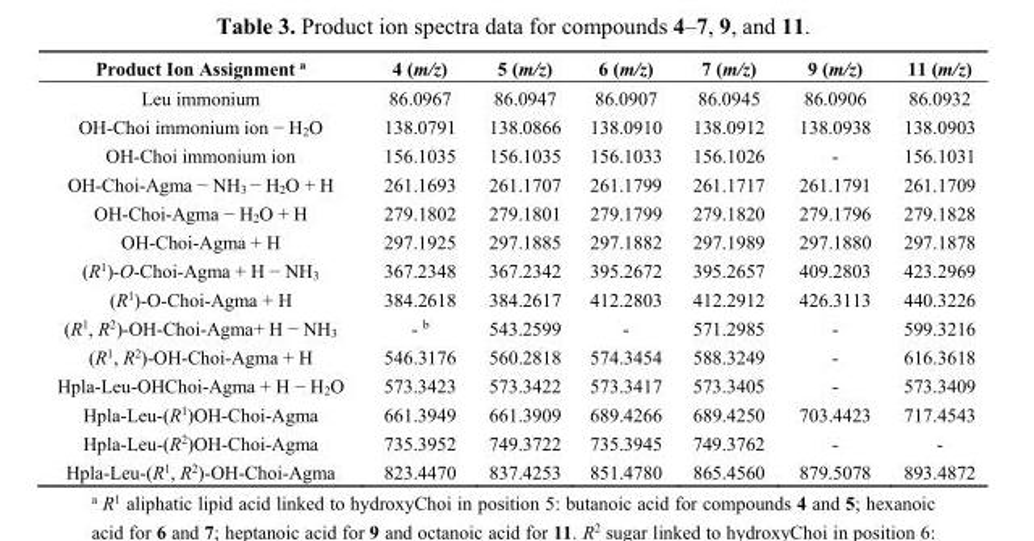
<table><thead><tr><td>Product Ion Assignment <sup>a</sup></td><td>4 (m/z)</td><td>5 (m/z)</td><td>6 (m/z)</td><td>7 (m/z)</td><td>9 (m/z)</td><td>11 (m/z)</td></tr></thead><tbody><tr><td>Leu immonium</td><td>86.0967</td><td>86.0947</td><td>86.0907</td><td>86.0945</td><td>86.0906</td><td>86.0932</td></tr><tr><td>OH-Choi immonium ion − H<sub>2</sub>O</td><td>138.0791</td><td>138.0866</td><td>138.0910</td><td>138.0912</td><td>138.0938</td><td>138.0903</td></tr><tr><td>OH-Choi immonium ion</td><td>156.1035</td><td>156.1035</td><td>156.1033</td><td>156.1026</td><td>-</td><td>156.1031</td></tr><tr><td>OH-Choi-Agma − NH<sub>3</sub> − H<sub>2</sub>O + H</td><td>261.1693</td><td>261.1707</td><td>261.1799</td><td>261.1717</td><td>261.1791</td><td>261.1709</td></tr><tr><td>OH-Choi-Agma − H<sub>2</sub>O + H</td><td>279.1802</td><td>279.1801</td><td>279.1799</td><td>279.1820</td><td>279.1796</td><td>279.1828</td></tr><tr><td>OH-Choi-Agma + H</td><td>297.1925</td><td>297.1885</td><td>297.1882</td><td>297.1989</td><td>297.1880</td><td>297.1878</td></tr><tr><td>(R<sup>1</sup>)-O-Choi-Agma + H − NH<sub>3</sub></td><td>367.2348</td><td>367.2342</td><td>395.2672</td><td>395.2657</td><td>409.2803</td><td>423.2969</td></tr><tr><td>(R<sup>1</sup>)-O-Choi-Agma + H</td><td>384.2618</td><td>384.2617</td><td>412.2803</td><td>412.2912</td><td>426.3113</td><td>440.3226</td></tr><tr><td>(R<sup>1</sup>, R<sup>2</sup>)-OH-Choi-Agma+ H − NH<sub>3</sub></td><td>- <sup>b</sup></td><td>543.2599</td><td>-</td><td>571.2985</td><td>-</td><td>599.3216</td></tr><tr><td>(R<sup>1</sup>, R<sup>2</sup>)-OH-Choi-Agma + H</td><td>546.3176</td><td>560.2818</td><td>574.3454</td><td>588.3249</td><td>-</td><td>616.3618</td></tr><tr><td>Hpla-Leu-OHChoi-Agma + H − H<sub>2</sub>O</td><td>573.3423</td><td>573.3422</td><td>573.3417</td><td>573.3405</td><td>-</td><td>573.3409</td></tr><tr><td>Hpla-Leu-(R<sup>1</sup>)OH-Choi-Agma</td><td>661.3949</td><td>661.3909</td><td>689.4266</td><td>689.4250</td><td>703.4423</td><td>717.4543</td></tr><tr><td>Hpla-Leu-(R<sup>2</sup>)OH-Choi-Agma</td><td>735.3952</td><td>749.3722</td><td>735.3945</td><td>749.3762</td><td>-</td><td>-</td></tr><tr><td>Hpla-Leu-(R<sup>1</sup>, R<sup>2</sup>)-OH-Choi-Agma</td><td>823.4470</td><td>837.4253</td><td>851.4780</td><td>865.4560</td><td>879.5078</td><td>893.4872</td></tr></tbody></table>